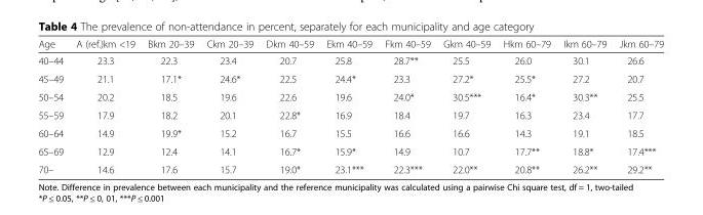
<table><thead><tr><td>Age</td><td>A (ref.)km &lt;19</td><td>Bkm 20–39</td><td>Ckm 20–39</td><td>Dkm 40–59</td><td>Ekm 40–59</td><td>Fkm 40–59</td><td>Gkm 40–59</td><td>Hkm 60–79</td><td>Ikm 60–79</td><td>Jkm 60–79</td></tr></thead><tbody><tr><td>40–44</td><td>23.3</td><td>22.3</td><td>23.4</td><td>20.7</td><td>25.8</td><td>28.7**</td><td>25.5</td><td>26.0</td><td>30.1</td><td>26.6</td></tr><tr><td>45–49</td><td>21.1</td><td>17.1*</td><td>24.6*</td><td>22.5</td><td>24.4*</td><td>23.3</td><td>27.2*</td><td>25.5*</td><td>27.2</td><td>20.7</td></tr><tr><td>50–54</td><td>20.2</td><td>18.5</td><td>19.6</td><td>22.6</td><td>19.6</td><td>24.0*</td><td>30.5***</td><td>16.4*</td><td>30.3**</td><td>25.5</td></tr><tr><td>55–59</td><td>17.9</td><td>18.2</td><td>20.1</td><td>22.8*</td><td>16.9</td><td>18.4</td><td>19.7</td><td>16.3</td><td>23.4</td><td>17.7</td></tr><tr><td>60–64</td><td>14.9</td><td>19.9*</td><td>15.2</td><td>16.7</td><td>15.5</td><td>16.6</td><td>16.6</td><td>14.3</td><td>19.1</td><td>18.5</td></tr><tr><td>65–69</td><td>12.9</td><td>12.4</td><td>14.1</td><td>16.7*</td><td>15.9*</td><td>14.9</td><td>10.7</td><td>17.7**</td><td>18.8*</td><td>17.4***</td></tr><tr><td>70–</td><td>14.6</td><td>17.6</td><td>15.7</td><td>19.0*</td><td>23.1***</td><td>22.3***</td><td>22.0**</td><td>20.8**</td><td>26.2**</td><td>29.2**</td></tr></tbody></table>